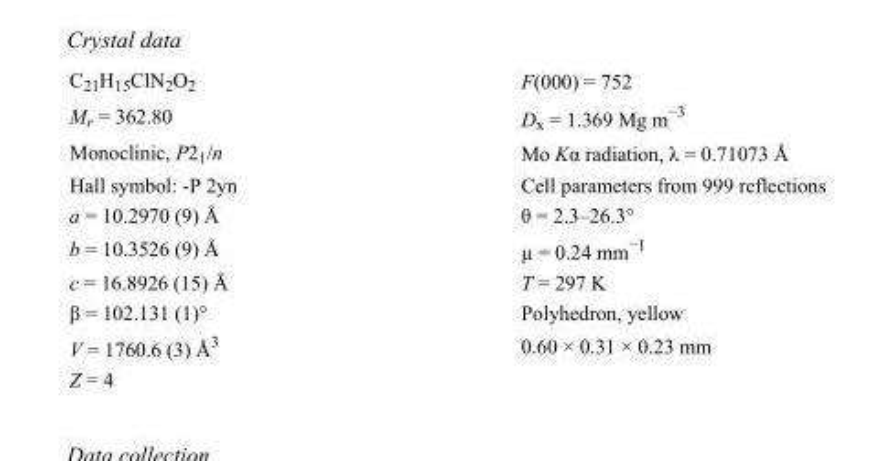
<table><tbody><tr><td>C<sub>21</sub>H<sub>15</sub>ClN<sub>2</sub>O<sub>2</sub></td><td>F(000) = 752</td></tr><tr><td>M<sub>r</sub> = 362.80</td><td>D<sub>x</sub> = 1.369 Mg m<sup>−3</sup></td></tr><tr><td>Monoclinic, P2<sub>1</sub>/n</td><td>Mo Kα radiation, λ = 0.71073 Å</td></tr><tr><td>Hall symbol: -P 2yn</td><td>Cell parameters from 999 reflections</td></tr><tr><td>a = 10.2970 (9) Å</td><td>θ = 2.3–26.3°</td></tr><tr><td>b = 10.3526 (9) Å</td><td>µ = 0.24 mm<sup>−1</sup></td></tr><tr><td>c = 16.8926 (15) Å</td><td>T = 297 K</td></tr><tr><td>β = 102.131 (1)°</td><td>Polyhedron, yellow</td></tr><tr><td>V = 1760.6 (3) Å<sup>3</sup></td><td>0.60 × 0.31 × 0.23 mm</td></tr><tr><td>Z = 4</td><td></td></tr></tbody></table>